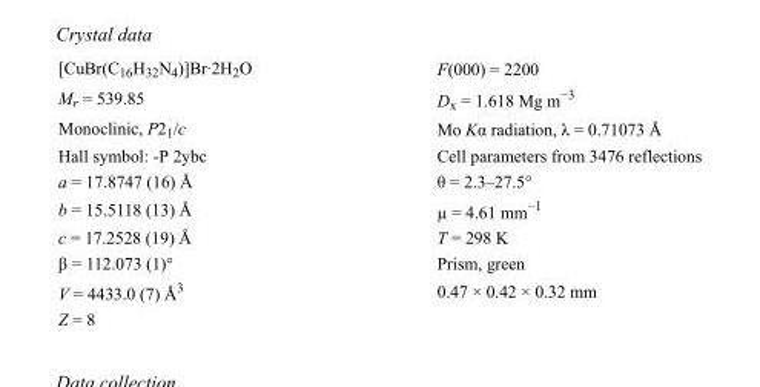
<table><tbody><tr><td>[CuBr(C<sub>16</sub>H<sub>32</sub>N<sub>4</sub>)]Br·2H<sub>2</sub>O</td><td>F(000) = 2200</td></tr><tr><td>M<sub>r</sub> = 539.85</td><td>D<sub>x</sub> = 1.618 Mg m<sup>−3</sup></td></tr><tr><td>Monoclinic, P2<sub>1</sub>/c</td><td>Mo Kα radiation, λ = 0.71073 Å</td></tr><tr><td>Hall symbol: -P 2ybc</td><td>Cell parameters from 3476 reflections</td></tr><tr><td>a = 17.8747 (16) Å</td><td>θ = 2.3–27.5°</td></tr><tr><td>b = 15.5118 (13) Å</td><td>µ = 4.61 mm<sup>−1</sup></td></tr><tr><td>c = 17.2528 (19) Å</td><td>T = 298 K</td></tr><tr><td>β = 112.073 (1)°</td><td>Prism, green</td></tr><tr><td>V = 4433.0 (7) Å<sup>3</sup></td><td>0.47 × 0.42 × 0.32 mm</td></tr><tr><td>Z = 8</td><td></td></tr></tbody></table>